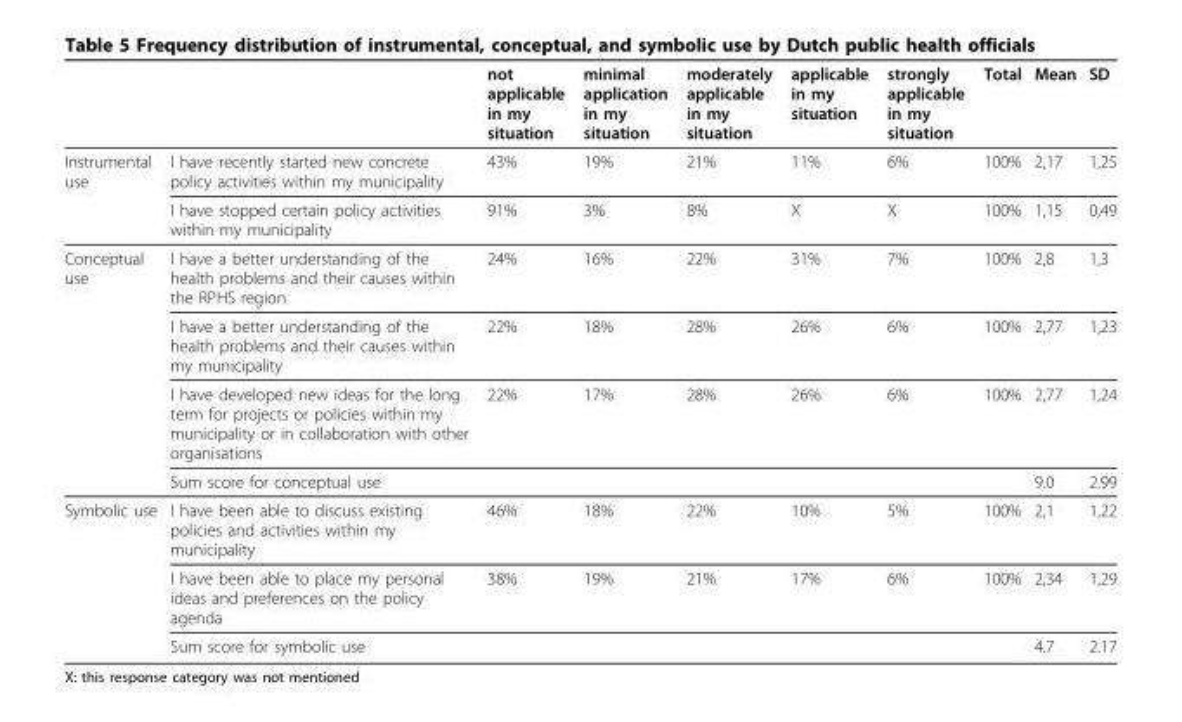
<table><thead><tr><td></td><td></td><td>not applicable in my situation</td><td>minimal application in my situation</td><td>moderately applicable in my situation</td><td>applicable in my situation</td><td>strongly applicable in my situation</td><td>Total</td><td>Mean</td><td>SD</td></tr></thead><tbody><tr><td rowspan="2">Instrumental use</td><td>I have recently started new concrete policy activities within my municipality</td><td>43%</td><td>19%</td><td>21%</td><td>11%</td><td>6%</td><td>100%</td><td>2,17</td><td>1,25</td></tr><tr><td>I have stopped certain policy activities within my municipality</td><td>91%</td><td>3%</td><td>8%</td><td>X</td><td>X</td><td>100%</td><td>1,15</td><td>0,49</td></tr><tr><td rowspan="4">Conceptual use</td><td>I have a better understanding of the health problems and their causes within the RPHS region</td><td>24%</td><td>16%</td><td>22%</td><td>31%</td><td>7%</td><td>100%</td><td>2,8</td><td>1,3</td></tr><tr><td>I have a better understanding of the health problems and their causes within my municipality</td><td>22%</td><td>18%</td><td>28%</td><td>26%</td><td>6%</td><td>100%</td><td>2,77</td><td>1,23</td></tr><tr><td>I have developed new ideas for the long term for projects or policies within my municipality or in collaboration with other organisations</td><td>22%</td><td>17%</td><td>28%</td><td>26%</td><td>6%</td><td>100%</td><td>2,77</td><td>1,24</td></tr><tr><td>Sum score for conceptual use</td><td></td><td></td><td></td><td></td><td></td><td></td><td>9.0</td><td>2.99</td></tr><tr><td rowspan="3">Symbolic use</td><td>I have been able to discuss existing policies and activities within my municipality</td><td>46%</td><td>18%</td><td>22%</td><td>10%</td><td>5%</td><td>100%</td><td>2,1</td><td>1,22</td></tr><tr><td>I have been able to place my personal ideas and preferences on the policy agenda</td><td>38%</td><td>19%</td><td>21%</td><td>17%</td><td>6%</td><td>100%</td><td>2,34</td><td>1,29</td></tr><tr><td>Sum score for symbolic use</td><td></td><td></td><td></td><td></td><td></td><td></td><td>4.7</td><td>2.17</td></tr></tbody></table>